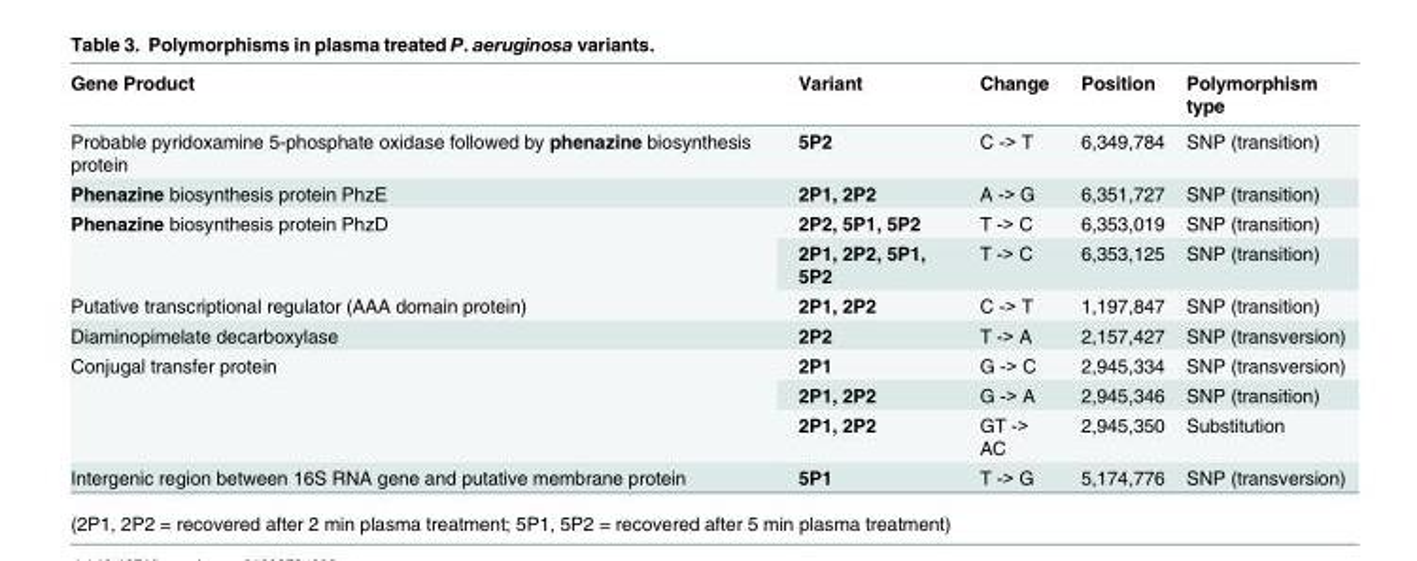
<table><thead><tr><td>Gene Product</td><td>Variant</td><td>Change</td><td>Position</td><td>Polymorphism type</td></tr></thead><tbody><tr><td>Probable pyridoxamine 5-phosphate oxidase followed by phenazine biosynthesis protein</td><td>5P2</td><td>C -&gt; T</td><td>6,349,784</td><td>SNP (transition)</td></tr><tr><td>Phenazine biosynthesis protein PhzE</td><td>2P1, 2P2</td><td>A -&gt; G</td><td>6,351,727</td><td>SNP (transition)</td></tr><tr><td rowspan="2">Phenazine biosynthesis protein PhzD</td><td>2P2, 5P1, 5P2</td><td>T -&gt; C</td><td>6,353,019</td><td>SNP (transition)</td></tr><tr><td>2P1, 2P2, 5P1, 5P2</td><td>T -&gt; C</td><td>6,353,125</td><td>SNP (transition)</td></tr><tr><td>Putative transcriptional regulator (AAA domain protein)</td><td>2P1, 2P2</td><td>C -&gt; T</td><td>1,197,847</td><td>SNP (transition)</td></tr><tr><td>Diaminopimelate decarboxylase</td><td>2P2</td><td>T -&gt; A</td><td>2,157,427</td><td>SNP (transversion)</td></tr><tr><td rowspan="3">Conjugal transfer protein</td><td>2P1</td><td>G -&gt; C</td><td>2,945,334</td><td>SNP (transversion)</td></tr><tr><td>2P1, 2P2</td><td>G -&gt; A</td><td>2,945,346</td><td>SNP (transition)</td></tr><tr><td>2P1, 2P2</td><td>GT -&gt; AC</td><td>2,945,350</td><td>Substitution</td></tr><tr><td>Intergenic region between 16S RNA gene and putative membrane protein</td><td>5P1</td><td>T -&gt; G</td><td>5,174,776</td><td>SNP (transversion)</td></tr></tbody></table>